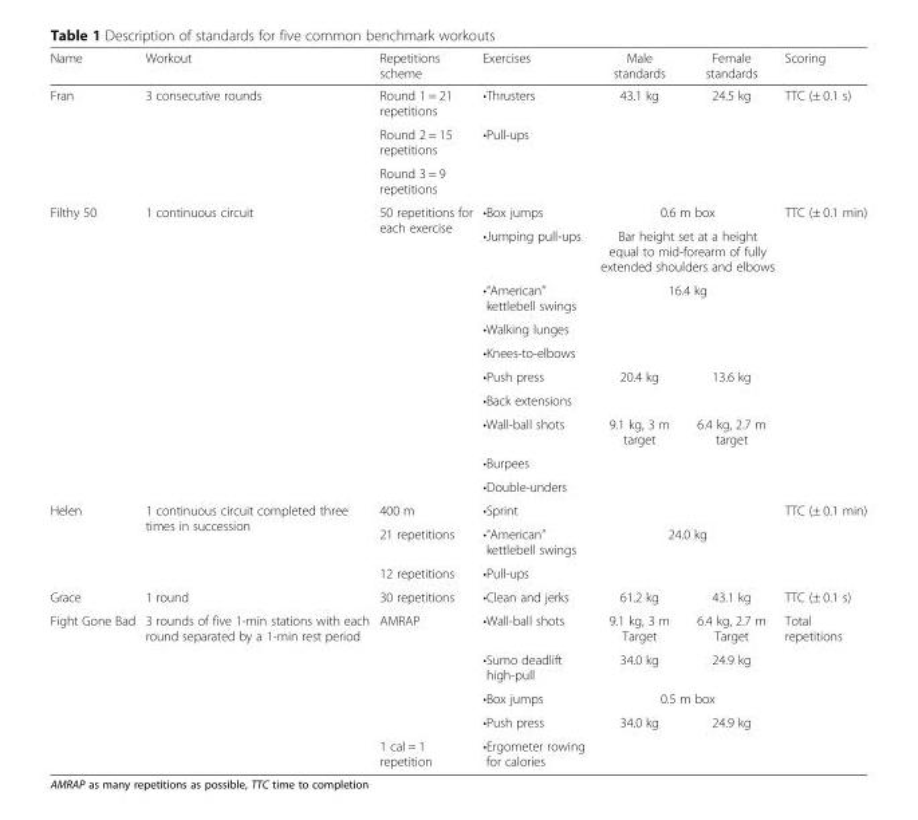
<table><thead><tr><td>Name</td><td>Workout</td><td>Repetitions scheme</td><td>Exercises</td><td>Male standards</td><td>Female standards</td><td>Scoring</td></tr></thead><tbody><tr><td rowspan="3">Fran</td><td rowspan="3">3 consecutive rounds</td><td>Round 1 = 21 repetitions</td><td>•Thrusters</td><td>43.1 kg</td><td>24.5 kg</td><td rowspan="3">TTC (± 0.1 s)</td></tr><tr><td>Round 2 = 15 repetitions</td><td rowspan="2">•Pull-ups</td><td></td><td></td></tr><tr><td>Round 3 = 9 repetitions</td><td></td><td></td></tr><tr><td rowspan="10">Filthy 50</td><td rowspan="10">1 continuous circuit</td><td rowspan="10">50 repetitions for each exercise</td><td>•Box jumps</td><td colspan="2">0.6 m box</td><td rowspan="10">TTC (± 0.1 min)</td></tr><tr><td>•Jumping pull-ups</td><td colspan="2">Bar height set at a height equal to mid-forearm of fully extended shoulders and elbows</td></tr><tr><td>•“American” kettlebell swings</td><td colspan="2">16.4 kg</td></tr><tr><td>•Walking lunges</td><td></td><td></td></tr><tr><td>•Knees-to-elbows</td><td></td><td></td></tr><tr><td>•Push press</td><td>20.4 kg</td><td>13.6 kg</td></tr><tr><td>•Back extensions</td><td></td><td></td></tr><tr><td>•Wall-ball shots</td><td>9.1 kg, 3 m target</td><td>6.4 kg, 2.7 m target</td></tr><tr><td>•Burpees</td><td></td><td></td></tr><tr><td>•Double-unders</td><td></td><td></td></tr><tr><td rowspan="3">Helen</td><td rowspan="3">1 continuous circuit completed three times in succession</td><td>400 m</td><td>•Sprint</td><td></td><td></td><td rowspan="3">TTC (± 0.1 min)</td></tr><tr><td>21 repetitions</td><td>•“American” kettlebell swings</td><td colspan="2">24.0 kg</td></tr><tr><td>12 repetitions</td><td>•Pull-ups</td><td></td><td></td></tr><tr><td>Grace</td><td>1 round</td><td>30 repetitions</td><td>•Clean and jerks</td><td>61.2 kg</td><td>43.1 kg</td><td>TTC (± 0.1 s)</td></tr><tr><td rowspan="5">Fight Gone Bad</td><td rowspan="5">3 rounds of five 1-min stations with each round separated by a 1-min rest period</td><td rowspan="4">AMRAP</td><td>•Wall-ball shots</td><td>9.1 kg, 3 m Target</td><td>6.4 kg, 2.7 m Target</td><td rowspan="5">Total repetitions</td></tr><tr><td>•Sumo deadlift high-pull</td><td>34.0 kg</td><td>24.9 kg</td></tr><tr><td>•Box jumps</td><td colspan="2">0.5 m box</td></tr><tr><td>•Push press</td><td>34.0 kg</td><td>24.9 kg</td></tr><tr><td>1 cal = 1 repetition</td><td>•Ergometer rowing for calories</td><td></td><td></td></tr></tbody></table>